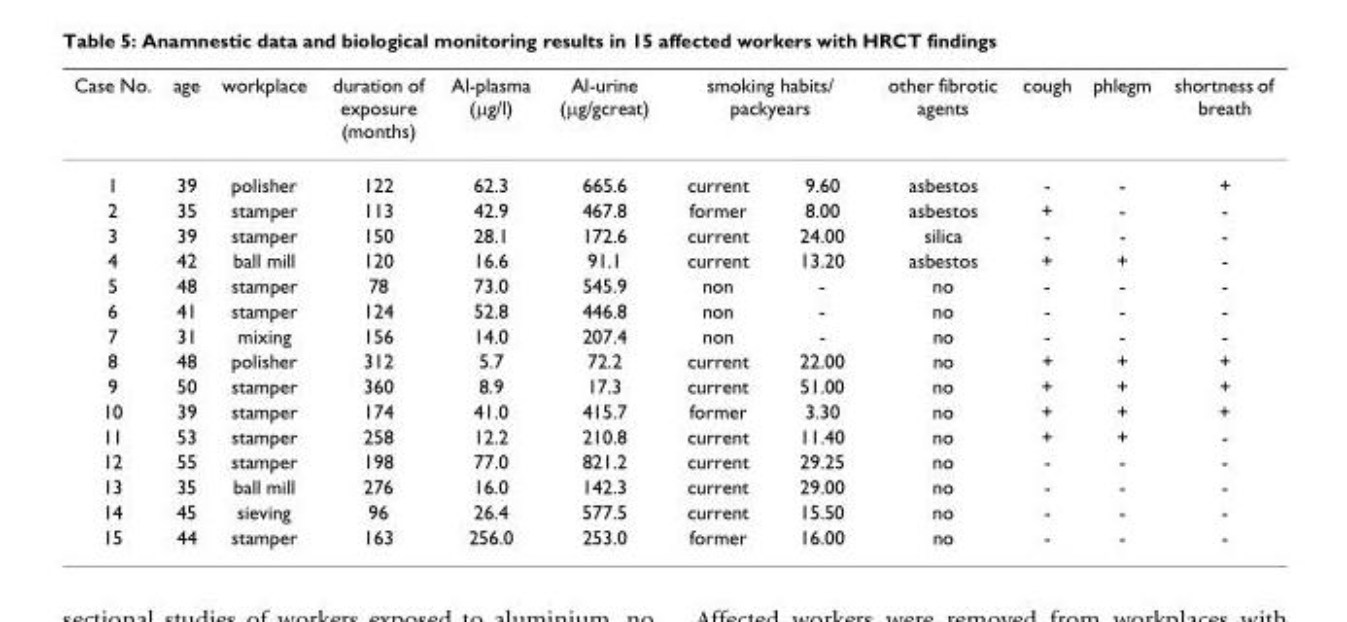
<table><thead><tr><td rowspan="2">Case No. 1</td><td rowspan="2">age 39</td><td rowspan="2">workplace polisher</td><td rowspan="2">duration of exposure (months) 122</td><td rowspan="2">Al-plasma (µg/l) 62.3</td><td rowspan="2">Al-urine (µg/gcreat) 665.6</td><td colspan="2">smoking habits/ packyears</td><td rowspan="2">other fibrotic agents asbestos</td><td rowspan="2">cough -</td><td rowspan="2">phlegm -</td><td rowspan="2">shortness of breath +</td></tr><tr><td>current</td><td>9.60</td></tr></thead><tbody><tr><td>2</td><td>35</td><td>stamper</td><td>113</td><td>42.9</td><td>467.8</td><td>former</td><td>8.00</td><td>asbestos</td><td>+</td><td>-</td><td>-</td></tr><tr><td>3</td><td>39</td><td>stamper</td><td>150</td><td>28.1</td><td>172.6</td><td>current</td><td>24.00</td><td>silica</td><td>-</td><td>-</td><td>-</td></tr><tr><td>4</td><td>42</td><td>ball mill</td><td>120</td><td>16.6</td><td>91.1</td><td>current</td><td>13.20</td><td>asbestos</td><td>+</td><td>+</td><td>-</td></tr><tr><td>5</td><td>48</td><td>stamper</td><td>78</td><td>73.0</td><td>545.9</td><td>non</td><td>-</td><td>no</td><td>-</td><td>-</td><td>-</td></tr><tr><td>6</td><td>41</td><td>stamper</td><td>124</td><td>52.8</td><td>446.8</td><td>non</td><td>-</td><td>no</td><td>-</td><td>-</td><td>-</td></tr><tr><td>7</td><td>31</td><td>mixing</td><td>156</td><td>14.0</td><td>207.4</td><td>non</td><td>-</td><td>no</td><td>-</td><td>-</td><td>-</td></tr><tr><td>8</td><td>48</td><td>polisher</td><td>312</td><td>5.7</td><td>72.2</td><td>current</td><td>22.00</td><td>no</td><td>+</td><td>+</td><td>+</td></tr><tr><td>9</td><td>50</td><td>stamper</td><td>360</td><td>8.9</td><td>17.3</td><td>current</td><td>51.00</td><td>no</td><td>+</td><td>+</td><td>+</td></tr><tr><td>10</td><td>39</td><td>stamper</td><td>174</td><td>41.0</td><td>415.7</td><td>former</td><td>3.30</td><td>no</td><td>+</td><td>+</td><td>+</td></tr><tr><td>11</td><td>53</td><td>stamper</td><td>258</td><td>12.2</td><td>210.8</td><td>current</td><td>11.40</td><td>no</td><td>+</td><td>+</td><td>-</td></tr><tr><td>12</td><td>55</td><td>stamper</td><td>198</td><td>77.0</td><td>821.2</td><td>current</td><td>29.25</td><td>no</td><td>-</td><td>-</td><td>-</td></tr><tr><td>13</td><td>35</td><td>ball mill</td><td>276</td><td>16.0</td><td>142.3</td><td>current</td><td>29.00</td><td>no</td><td>-</td><td>-</td><td>-</td></tr><tr><td>14</td><td>45</td><td>sieving</td><td>96</td><td>26.4</td><td>577.5</td><td>current</td><td>15.50</td><td>no</td><td>-</td><td>-</td><td>-</td></tr><tr><td>15</td><td>44</td><td>stamper</td><td>163</td><td>256.0</td><td>253.0</td><td>former</td><td>16.00</td><td>no</td><td>-</td><td>-</td><td>-</td></tr></tbody></table>